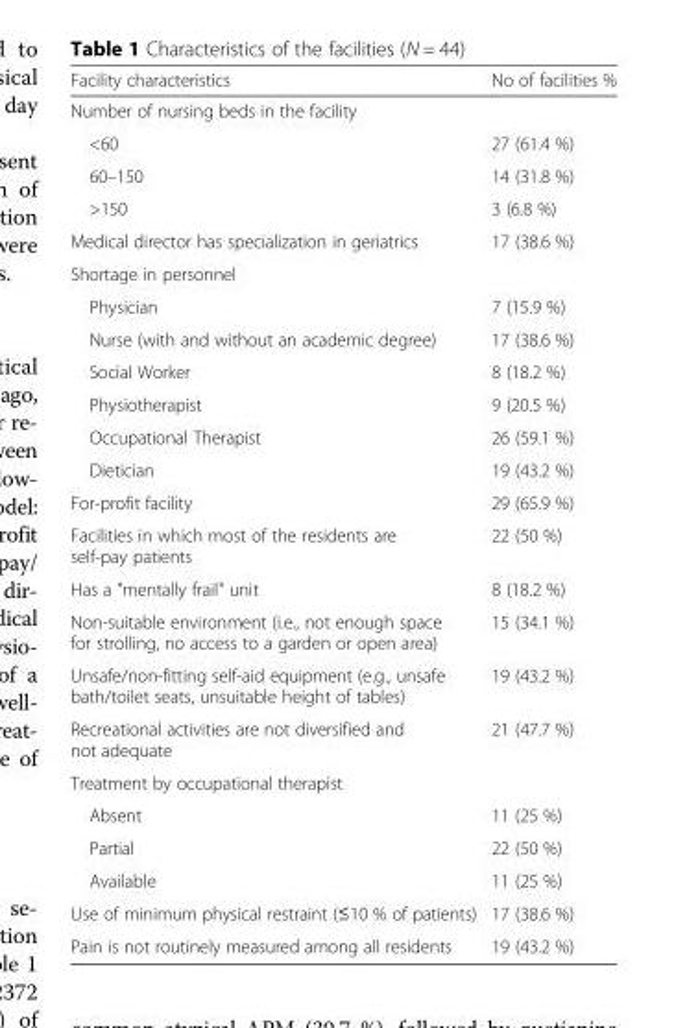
<table><thead><tr><td>Facility characteristics</td><td>No of facilities %</td></tr></thead><tbody><tr><td colspan="2">Number of nursing beds in the facility</td></tr><tr><td>&lt;60</td><td>27 (61.4 %)</td></tr><tr><td>60–150</td><td>14 (31.8 %)</td></tr><tr><td>&gt;150</td><td>3 (6.8 %)</td></tr><tr><td>Medical director has specialization in geriatrics</td><td>17 (38.6 %)</td></tr><tr><td colspan="2">Shortage in personnel</td></tr><tr><td>Physician</td><td>7 (15.9 %)</td></tr><tr><td>Nurse (with and without an academic degree)</td><td>17 (38.6 %)</td></tr><tr><td>Social Worker</td><td>8 (18.2 %)</td></tr><tr><td>Physiotherapist</td><td>9 (20.5 %)</td></tr><tr><td>Occupational Therapist</td><td>26 (59.1 %)</td></tr><tr><td>Dietician</td><td>19 (43.2 %)</td></tr><tr><td>For-profit facility</td><td>29 (65.9 %)</td></tr><tr><td>Facilities in which most of the residents are self-pay patients</td><td>22 (50 %)</td></tr><tr><td>Has a &quot;mentally frail&quot; unit</td><td>8 (18.2 %)</td></tr><tr><td>Non-suitable environment (i.e., not enough space for strolling, no access to a garden or open area)</td><td>15 (34.1 %)</td></tr><tr><td>Unsafe/non-fitting self-aid equipment (e.g., unsafe bath/toilet seats, unsuitable height of tables)</td><td>19 (43.2 %)</td></tr><tr><td>Recreational activities are not diversified and not adequate</td><td>21 (47.7 %)</td></tr><tr><td colspan="2">Treatment by occupational therapist</td></tr><tr><td>Absent</td><td>11 (25 %)</td></tr><tr><td>Partial</td><td>22 (50 %)</td></tr><tr><td>Available</td><td>11 (25 %)</td></tr><tr><td>Use of minimum physical restraint (≤10 % of patients)</td><td>17 (38.6 %)</td></tr><tr><td>Pain is not routinely measured among all residents</td><td>19 (43.2 %)</td></tr></tbody></table>